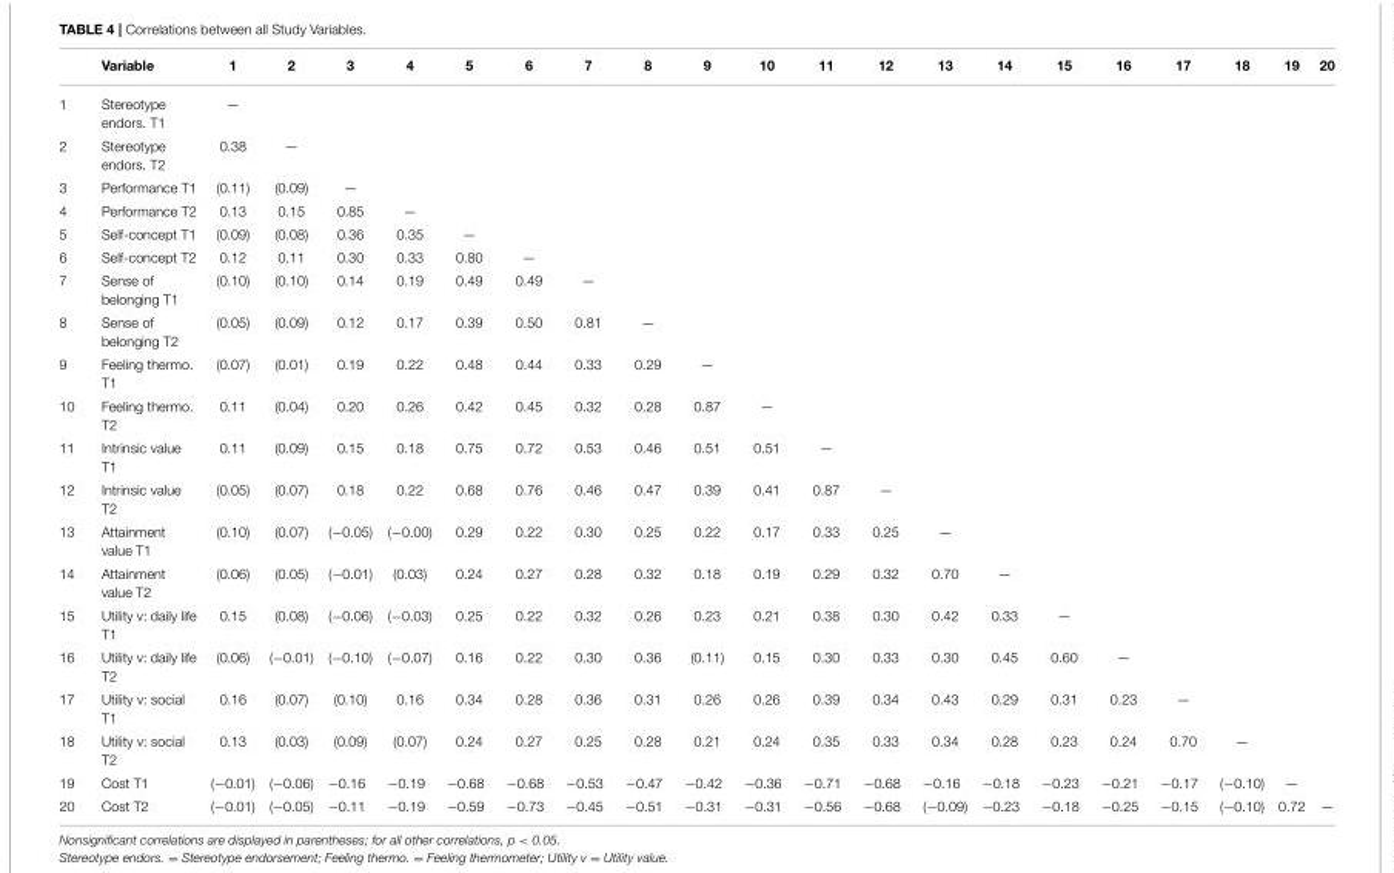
<table><thead><tr><td></td><td>Variable</td><td>1</td><td>2</td><td>3</td><td>4</td><td>5</td><td>6</td><td>7</td><td>8</td><td>9</td><td>10</td><td>11</td><td>12</td><td>13</td><td>14</td><td>15</td><td>16</td><td>17</td><td>18</td><td>19</td><td>20</td></tr></thead><tbody><tr><td>1</td><td>Stereotype endors. T1</td><td>—</td><td></td><td></td><td></td><td></td><td></td><td></td><td></td><td></td><td></td><td></td><td></td><td></td><td></td><td></td><td></td><td></td><td></td><td></td><td></td></tr><tr><td>2</td><td>Stereotype endors. T2</td><td>0.38</td><td>—</td><td></td><td></td><td></td><td></td><td></td><td></td><td></td><td></td><td></td><td></td><td></td><td></td><td></td><td></td><td></td><td></td><td></td><td></td></tr><tr><td>3</td><td>Performance T1</td><td>(0.11)</td><td>(0.09)</td><td>—</td><td></td><td></td><td></td><td></td><td></td><td></td><td></td><td></td><td></td><td></td><td></td><td></td><td></td><td></td><td></td><td></td><td></td></tr><tr><td>4</td><td>Performance T2</td><td>0.13</td><td>0.15</td><td>0.85</td><td>—</td><td></td><td></td><td></td><td></td><td></td><td></td><td></td><td></td><td></td><td></td><td></td><td></td><td></td><td></td><td></td><td></td></tr><tr><td>5</td><td>Self-concept T1</td><td>(0.09)</td><td>(0.08)</td><td>0.36</td><td>0.35</td><td>—</td><td></td><td></td><td></td><td></td><td></td><td></td><td></td><td></td><td></td><td></td><td></td><td></td><td></td><td></td><td></td></tr><tr><td>6</td><td>Self-concept T2</td><td>0.12</td><td>0.11</td><td>0.30</td><td>0.33</td><td>0.80</td><td>—</td><td></td><td></td><td></td><td></td><td></td><td></td><td></td><td></td><td></td><td></td><td></td><td></td><td></td><td></td></tr><tr><td>7</td><td>Sense of belonging T1</td><td>(0.10)</td><td>(0.10)</td><td>0.14</td><td>0.19</td><td>0.49</td><td>0.49</td><td>—</td><td></td><td></td><td></td><td></td><td></td><td></td><td></td><td></td><td></td><td></td><td></td><td></td><td></td></tr><tr><td>8</td><td>Sense of belonging T2</td><td>(0.05)</td><td>(0.09)</td><td>0.12</td><td>0.17</td><td>0.39</td><td>0.50</td><td>0.81</td><td>—</td><td></td><td></td><td></td><td></td><td></td><td></td><td></td><td></td><td></td><td></td><td></td><td></td></tr><tr><td>9</td><td>Feeling thermo. T1</td><td>(0.07)</td><td>(0.01)</td><td>0.19</td><td>0.22</td><td>0.48</td><td>0.44</td><td>0.33</td><td>0.29</td><td>—</td><td></td><td></td><td></td><td></td><td></td><td></td><td></td><td></td><td></td><td></td><td></td></tr><tr><td>10</td><td>Feeling thermo. T2</td><td>0.11</td><td>(0.04)</td><td>0.20</td><td>0.26</td><td>0.42</td><td>0.45</td><td>0.32</td><td>0.28</td><td>0.87</td><td>—</td><td></td><td></td><td></td><td></td><td></td><td></td><td></td><td></td><td></td><td></td></tr><tr><td>11</td><td>Intrinsic value T1</td><td>0.11</td><td>(0.09)</td><td>0.15</td><td>0.18</td><td>0.75</td><td>0.72</td><td>0.53</td><td>0.46</td><td>0.51</td><td>0.51</td><td>—</td><td></td><td></td><td></td><td></td><td></td><td></td><td></td><td></td><td></td></tr><tr><td>12</td><td>Intrinsic value T2</td><td>(0.05)</td><td>(0.07)</td><td>0.18</td><td>0.22</td><td>0.68</td><td>0.76</td><td>0.46</td><td>0.47</td><td>0.39</td><td>0.41</td><td>0.87</td><td>—</td><td></td><td></td><td></td><td></td><td></td><td></td><td></td><td></td></tr><tr><td>13</td><td>Attainment value T1</td><td>(0.10)</td><td>(0.07)</td><td>(−0.05)</td><td>(−0.00)</td><td>0.29</td><td>0.22</td><td>0.30</td><td>0.25</td><td>0.22</td><td>0.17</td><td>0.33</td><td>0.25</td><td>—</td><td></td><td></td><td></td><td></td><td></td><td></td><td></td></tr><tr><td>14</td><td>Attainment value T2</td><td>(0.06)</td><td>(0.05)</td><td>(−0.01)</td><td>(0.03)</td><td>0.24</td><td>0.27</td><td>0.28</td><td>0.32</td><td>0.18</td><td>0.19</td><td>0.29</td><td>0.32</td><td>0.70</td><td>—</td><td></td><td></td><td></td><td></td><td></td><td></td></tr><tr><td>15</td><td>Utility v: daily life T1</td><td>0.15</td><td>(0.08)</td><td>(−0.06)</td><td>(−0.03)</td><td>0.25</td><td>0.22</td><td>0.32</td><td>0.26</td><td>0.23</td><td>0.21</td><td>0.38</td><td>0.30</td><td>0.42</td><td>0.33</td><td>—</td><td></td><td></td><td></td><td></td><td></td></tr><tr><td>16</td><td>Utility v: daily life T2</td><td>(0.06)</td><td>(−0.01)</td><td>(−0.10)</td><td>(−0.07)</td><td>0.16</td><td>0.22</td><td>0.30</td><td>0.36</td><td>(0.11)</td><td>0.15</td><td>0.30</td><td>0.33</td><td>0.30</td><td>0.45</td><td>0.60</td><td>—</td><td></td><td></td><td></td><td></td></tr><tr><td>17</td><td>Utility v: social T1</td><td>0.16</td><td>(0.07)</td><td>(0.10)</td><td>0.16</td><td>0.34</td><td>0.28</td><td>0.36</td><td>0.31</td><td>0.26</td><td>0.26</td><td>0.39</td><td>0.34</td><td>0.43</td><td>0.29</td><td>0.31</td><td>0.23</td><td>—</td><td></td><td></td><td></td></tr><tr><td>18</td><td>Utility v: social T2</td><td>0.13</td><td>(0.03)</td><td>(0.09)</td><td>(0.07)</td><td>0.24</td><td>0.27</td><td>0.25</td><td>0.28</td><td>0.21</td><td>0.24</td><td>0.35</td><td>0.33</td><td>0.34</td><td>0.28</td><td>0.23</td><td>0.24</td><td>0.70</td><td>—</td><td></td><td></td></tr><tr><td>19</td><td>Cost T1</td><td>(−0.01)</td><td>(−0.06)</td><td>−0.16</td><td>−0.19</td><td>−0.68</td><td>−0.68</td><td>−0.53</td><td>−0.47</td><td>−0.42</td><td>−0.36</td><td>−0.71</td><td>−0.68</td><td>−0.16</td><td>−0.18</td><td>−0.23</td><td>−0.21</td><td>−0.17</td><td>(−0.10)</td><td>—</td><td></td></tr><tr><td>20</td><td>Cost T2</td><td>(−0.01)</td><td>(−0.05)</td><td>−0.11</td><td>−0.19</td><td>−0.59</td><td>−0.73</td><td>−0.45</td><td>−0.51</td><td>−0.31</td><td>−0.31</td><td>−0.56</td><td>−0.68</td><td>(−0.09)</td><td>−0.23</td><td>−0.18</td><td>−0.25</td><td>−0.15</td><td>(−0.10)</td><td>0.72</td><td>—</td></tr></tbody></table>